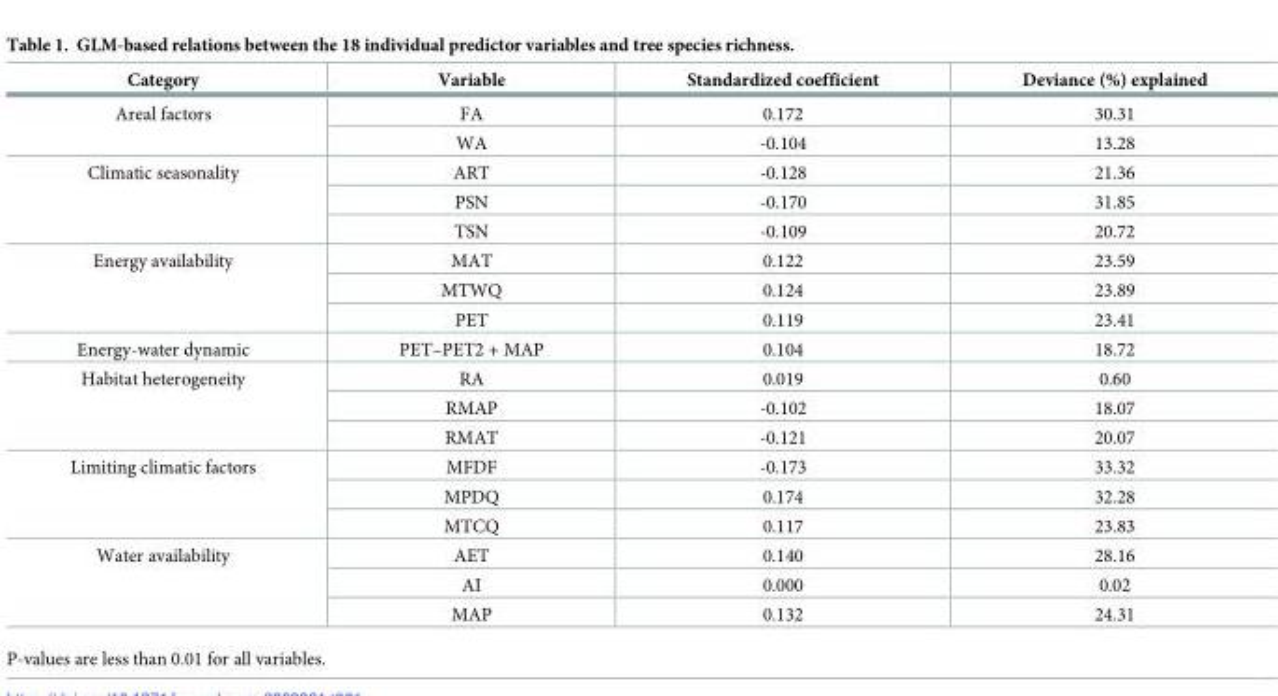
<table><thead><tr><td>Category</td><td>Variable</td><td>Standardized coefficient</td><td>Deviance (%) explained</td></tr></thead><tbody><tr><td rowspan="2">Areal factors</td><td>FA</td><td>0.172</td><td>30.31</td></tr><tr><td>WA</td><td>-0.104</td><td>13.28</td></tr><tr><td rowspan="3">Climatic seasonality</td><td>ART</td><td>-0.128</td><td>21.36</td></tr><tr><td>PSN</td><td>-0.170</td><td>31.85</td></tr><tr><td>TSN</td><td>-0.109</td><td>20.72</td></tr><tr><td rowspan="3">Energy availability</td><td>MAT</td><td>0.122</td><td>23.59</td></tr><tr><td>MTWQ</td><td>0.124</td><td>23.89</td></tr><tr><td>PET</td><td>0.119</td><td>23.41</td></tr><tr><td>Energy-water dynamic</td><td>PET–PET2 + MAP</td><td>0.104</td><td>18.72</td></tr><tr><td rowspan="3">Habitat heterogeneity</td><td>RA</td><td>0.019</td><td>0.60</td></tr><tr><td>RMAP</td><td>-0.102</td><td>18.07</td></tr><tr><td>RMAT</td><td>-0.121</td><td>20.07</td></tr><tr><td rowspan="3">Limiting climatic factors</td><td>MFDF</td><td>-0.173</td><td>33.32</td></tr><tr><td>MPDQ</td><td>0.174</td><td>32.28</td></tr><tr><td>MTCQ</td><td>0.117</td><td>23.83</td></tr><tr><td rowspan="3">Water availability</td><td>AET</td><td>0.140</td><td>28.16</td></tr><tr><td>AI</td><td>0.000</td><td>0.02</td></tr><tr><td>MAP</td><td>0.132</td><td>24.31</td></tr></tbody></table>